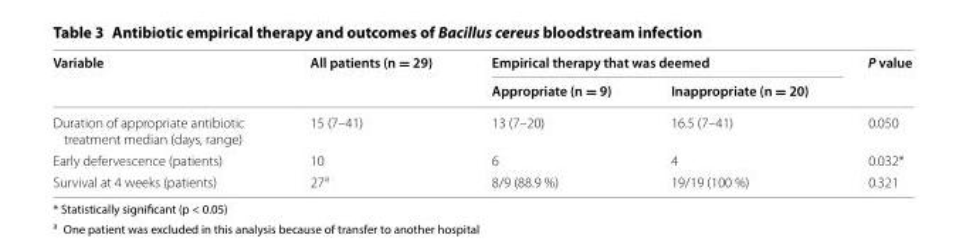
<table><thead><tr><td rowspan="2">Variable</td><td rowspan="2">All patients (n = 29)</td><td colspan="2">Empirical therapy that was deemed</td><td rowspan="2">P value</td></tr><tr><td>Appropriate (n = 9)</td><td>Inappropriate (n = 20)</td></tr></thead><tbody><tr><td>Duration of appropriate antibiotic treatment median (days, range)</td><td>15 (7–41)</td><td>13 (7–20)</td><td>16.5 (7–41)</td><td>0.050</td></tr><tr><td>Early defervescence (patients)</td><td>10</td><td>6</td><td>4</td><td>0.032*</td></tr><tr><td>Survival at 4 weeks (patients)</td><td>27<sup>a</sup></td><td>8/9 (88.9 %)</td><td>19/19 (100 %)</td><td>0.321</td></tr></tbody></table>